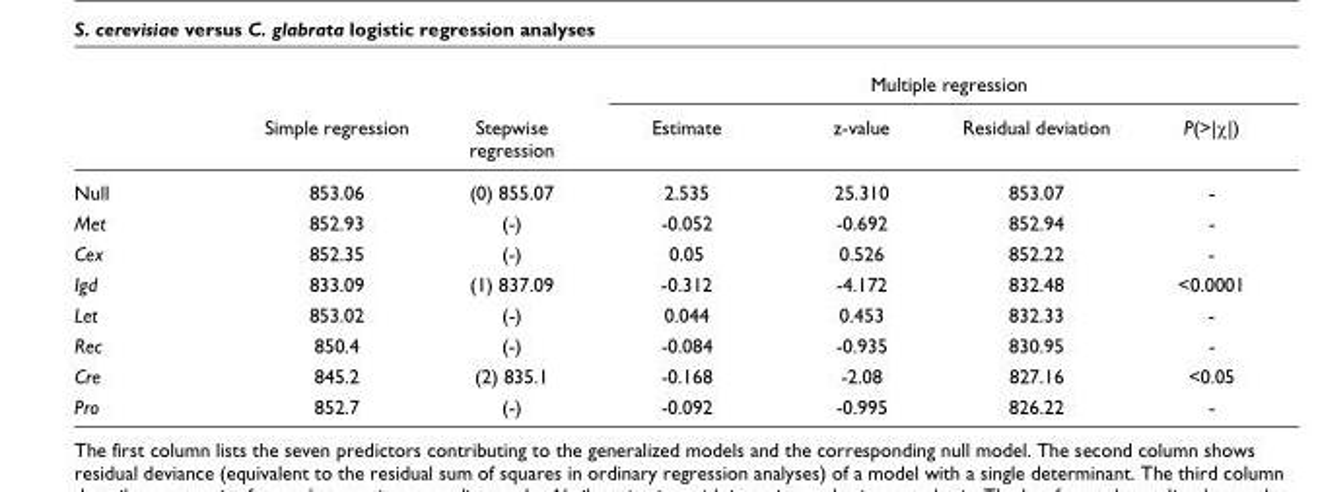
<table><thead><tr><td rowspan="2"></td><td rowspan="2">Simple regression</td><td rowspan="2">Stepwise regression</td><td colspan="4">Multiple regression</td></tr><tr><td>Estimate</td><td>z-value</td><td>Residual deviation</td><td>P(&gt;|χ|)</td></tr></thead><tbody><tr><td>Null</td><td>853.06</td><td>(0) 855.07</td><td>2.535</td><td>25.310</td><td>853.07</td><td>-</td></tr><tr><td>Met</td><td>852.93</td><td>(-)</td><td>-0.052</td><td>-0.692</td><td>852.94</td><td>-</td></tr><tr><td>Cex</td><td>852.35</td><td>(-)</td><td>0.05</td><td>0.526</td><td>852.22</td><td>-</td></tr><tr><td>Igd</td><td>833.09</td><td>(1) 837.09</td><td>-0.312</td><td>-4.172</td><td>832.48</td><td>&lt;0.0001</td></tr><tr><td>Let</td><td>853.02</td><td>(-)</td><td>0.044</td><td>0.453</td><td>832.33</td><td>-</td></tr><tr><td>Rec</td><td>850.4</td><td>(-)</td><td>-0.084</td><td>-0.935</td><td>830.95</td><td>-</td></tr><tr><td>Cre</td><td>845.2</td><td>(2) 835.1</td><td>-0.168</td><td>-2.08</td><td>827.16</td><td>&lt;0.05</td></tr><tr><td>Pro</td><td>852.7</td><td>(-)</td><td>-0.092</td><td>-0.995</td><td>826.22</td><td>-</td></tr></tbody></table>